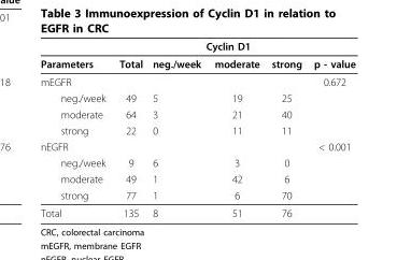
<table><thead><tr><td rowspan="2">Parameters</td><td rowspan="2">Total</td><td colspan="3">Cyclin D1</td><td rowspan="2">p - value</td></tr><tr><td>neg./week</td><td>moderate</td><td>strong</td></tr></thead><tbody><tr><td>mEGFR</td><td></td><td></td><td></td><td></td><td>0.672</td></tr><tr><td>neg./week</td><td>49</td><td>5</td><td>19</td><td>25</td><td></td></tr><tr><td>moderate</td><td>64</td><td>3</td><td>21</td><td>40</td><td></td></tr><tr><td>strong</td><td>22</td><td>0</td><td>11</td><td>11</td><td></td></tr><tr><td>nEGFR</td><td></td><td></td><td></td><td></td><td>&lt; 0.001</td></tr><tr><td>neg./week</td><td>9</td><td>6</td><td>3</td><td>0</td><td></td></tr><tr><td>moderate</td><td>49</td><td>1</td><td>42</td><td>6</td><td></td></tr><tr><td>strong</td><td>77</td><td>1</td><td>6</td><td>70</td><td></td></tr><tr><td>Total</td><td>135</td><td>8</td><td>51</td><td>76</td><td></td></tr></tbody></table>